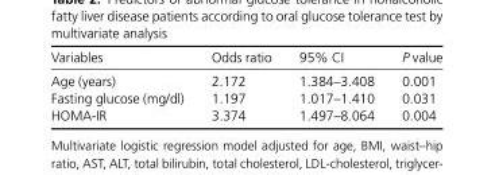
<table><thead><tr><td>Variables</td><td>Odds ratio</td><td>95% CI</td><td>P value</td></tr></thead><tbody><tr><td>Age (years)</td><td>2.172</td><td>1.384–3.408</td><td>0.001</td></tr><tr><td>Fasting glucose (mg/dl)</td><td>1.197</td><td>1.017–1.410</td><td>0.031</td></tr><tr><td>HOMA-IR</td><td>3.374</td><td>1.497–8.064</td><td>0.004</td></tr></tbody></table>